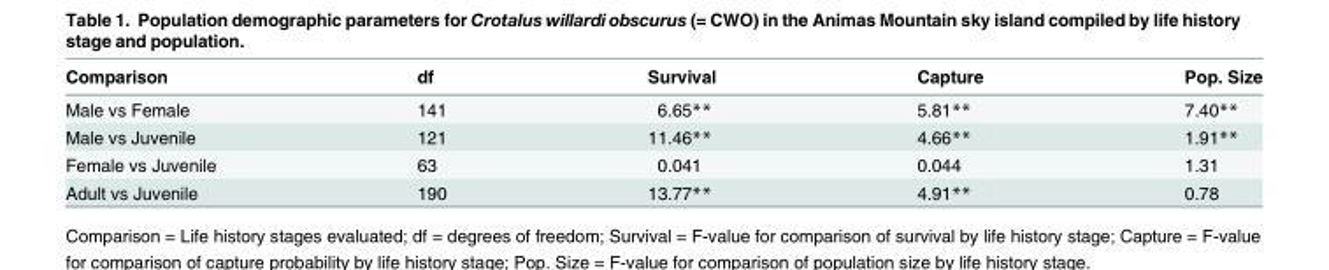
<table><thead><tr><td>Comparison</td><td>df</td><td>Survival</td><td>Capture</td><td>Pop. Size</td></tr></thead><tbody><tr><td>Male vs Female</td><td>141</td><td>6.65**</td><td>5.81**</td><td>7.40**</td></tr><tr><td>Male vs Juvenile</td><td>121</td><td>11.46**</td><td>4.66**</td><td>1.91**</td></tr><tr><td>Female vs Juvenile</td><td>63</td><td>0.041</td><td>0.044</td><td>1.31</td></tr><tr><td>Adult vs Juvenile</td><td>190</td><td>13.77**</td><td>4.91**</td><td>0.78</td></tr></tbody></table>